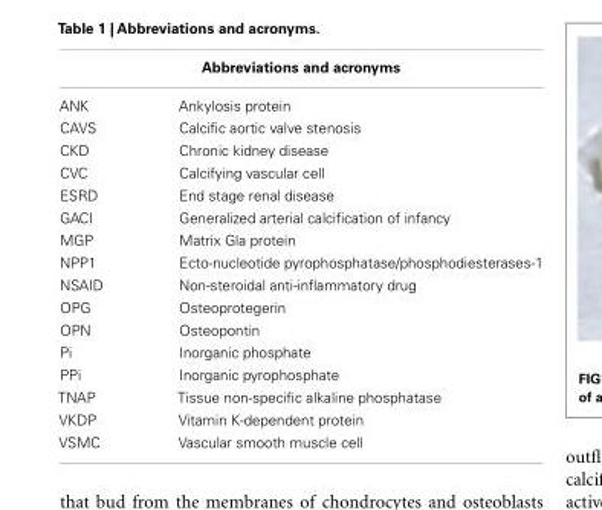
<table><thead><tr><td colspan="2">Abbreviations and acronyms</td></tr><tr><td>ANK</td><td>Ankylosis protein</td></tr></thead><tbody><tr><td>CAVS</td><td>Calcific aortic valve stenosis</td></tr><tr><td>CKD</td><td>Chronic kidney disease</td></tr><tr><td>CVC</td><td>Calcifying vascular cell</td></tr><tr><td>ESRD</td><td>End stage renal disease</td></tr><tr><td>GACI</td><td>Generalized arterial calcification of infancy</td></tr><tr><td>MGP</td><td>Matrix Gla protein</td></tr><tr><td>NPP1</td><td>Ecto-nucleotide pyrophosphatase/phosphodiesterases-1</td></tr><tr><td>NSAID</td><td>Non-steroidal anti-inflammatory drug</td></tr><tr><td>OPG</td><td>Osteoprotegerin</td></tr><tr><td>OPN</td><td>Osteopontin</td></tr><tr><td>Pi</td><td>Inorganic phosphate</td></tr><tr><td>PPi</td><td>Inorganic pyrophosphate</td></tr><tr><td>TNAP</td><td>Tissue non-specific alkaline phosphatase</td></tr><tr><td>VKDP</td><td>Vitamin K-dependent protein</td></tr><tr><td>VSMC</td><td>Vascular smooth muscle cell</td></tr></tbody></table>